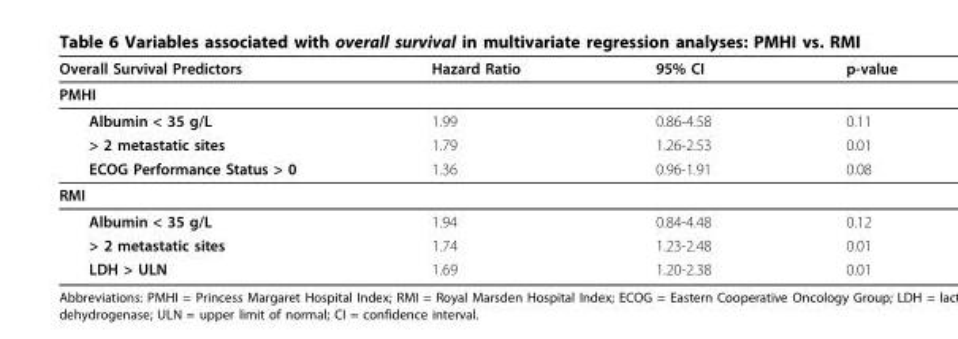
<table><thead><tr><td>Overall Survival Predictors</td><td>Hazard Ratio</td><td>95% CI</td><td>p-value</td></tr></thead><tbody><tr><td colspan="4">PMHI</td></tr><tr><td>Albumin &lt; 35 g/L</td><td>1.99</td><td>0.86-4.58</td><td>0.11</td></tr><tr><td>&gt; 2 metastatic sites</td><td>1.79</td><td>1.26-2.53</td><td>0.01</td></tr><tr><td>ECOG Performance Status &gt; 0</td><td>1.36</td><td>0.96-1.91</td><td>0.08</td></tr><tr><td colspan="4">RMI</td></tr><tr><td>Albumin &lt; 35 g/L</td><td>1.94</td><td>0.84-4.48</td><td>0.12</td></tr><tr><td>&gt; 2 metastatic sites</td><td>1.74</td><td>1.23-2.48</td><td>0.01</td></tr><tr><td>LDH &gt; ULN</td><td>1.69</td><td>1.20-2.38</td><td>0.01</td></tr></tbody></table>